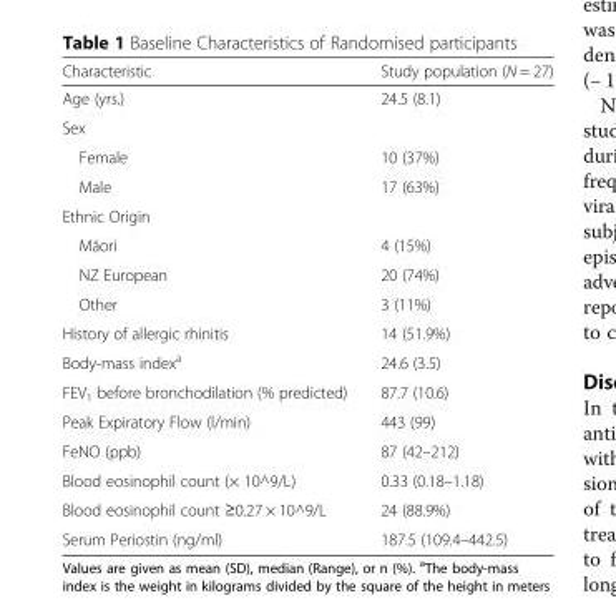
<table><thead><tr><td>Characteristic</td><td>Study population (N = 27)</td></tr></thead><tbody><tr><td>Age (yrs.)</td><td>24.5 (8.1)</td></tr><tr><td colspan="2">Sex</td></tr><tr><td>Female</td><td>10 (37%)</td></tr><tr><td>Male</td><td>17 (63%)</td></tr><tr><td colspan="2">Ethnic Origin</td></tr><tr><td>Māori</td><td>4 (15%)</td></tr><tr><td>NZ European</td><td>20 (74%)</td></tr><tr><td>Other</td><td>3 (11%)</td></tr><tr><td>History of allergic rhinitis</td><td>14 (51.9%)</td></tr><tr><td>Body-mass index<sup>a</sup></td><td>24.6 (3.5)</td></tr><tr><td>FEV<sub>1</sub> before bronchodilation (% predicted)</td><td>87.7 (10.6)</td></tr><tr><td>Peak Expiratory Flow (l/min)</td><td>443 (99)</td></tr><tr><td>FeNO (ppb)</td><td>87 (42–212)</td></tr><tr><td>Blood eosinophil count (× 10^9/L)</td><td>0.33 (0.18–1.18)</td></tr><tr><td>Blood eosinophil count ≥0.27 × 10^9/L</td><td>24 (88.9%)</td></tr><tr><td>Serum Periostin (ng/ml)</td><td>187.5 (109.4–442.5)</td></tr></tbody></table>